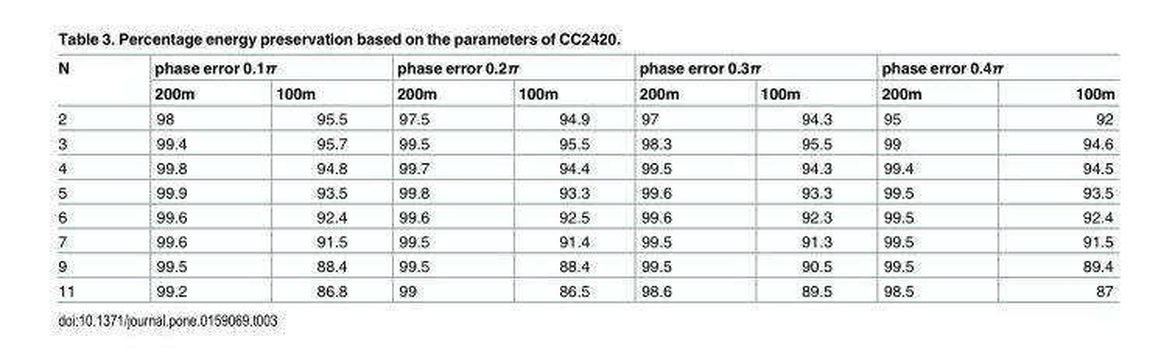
<table><thead><tr><td rowspan="2">N</td><td colspan="2">phase error 0.1π</td><td colspan="2">phase error 0.2π</td><td colspan="2">phase error 0.3π</td><td colspan="2">phase error 0.4π</td></tr><tr><td>200m</td><td>100m</td><td>200m</td><td>100m</td><td>200m</td><td>100m</td><td>200m</td><td>100m</td></tr></thead><tbody><tr><td>2</td><td>98</td><td>95.5</td><td>97.5</td><td>94.9</td><td>97</td><td>94.3</td><td>95</td><td>92</td></tr><tr><td>3</td><td>99.4</td><td>95.7</td><td>99.5</td><td>95.5</td><td>98.3</td><td>95.5</td><td>99</td><td>94.6</td></tr><tr><td>4</td><td>99.8</td><td>94.8</td><td>99.7</td><td>94.4</td><td>99.5</td><td>94.3</td><td>99.4</td><td>94.5</td></tr><tr><td>5</td><td>99.9</td><td>93.5</td><td>99.8</td><td>93.3</td><td>99.6</td><td>93.3</td><td>99.5</td><td>93.5</td></tr><tr><td>6</td><td>99.6</td><td>92.4</td><td>99.6</td><td>92.5</td><td>99.6</td><td>92.3</td><td>99.5</td><td>92.4</td></tr><tr><td>7</td><td>99.6</td><td>91.5</td><td>99.5</td><td>91.4</td><td>99.5</td><td>91.3</td><td>99.5</td><td>91.5</td></tr><tr><td>9</td><td>99.5</td><td>88.4</td><td>99.5</td><td>88.4</td><td>99.5</td><td>90.5</td><td>99.5</td><td>89.4</td></tr><tr><td>11</td><td>99.2</td><td>86.8</td><td>99</td><td>86.5</td><td>98.6</td><td>89.5</td><td>98.5</td><td>87</td></tr></tbody></table>